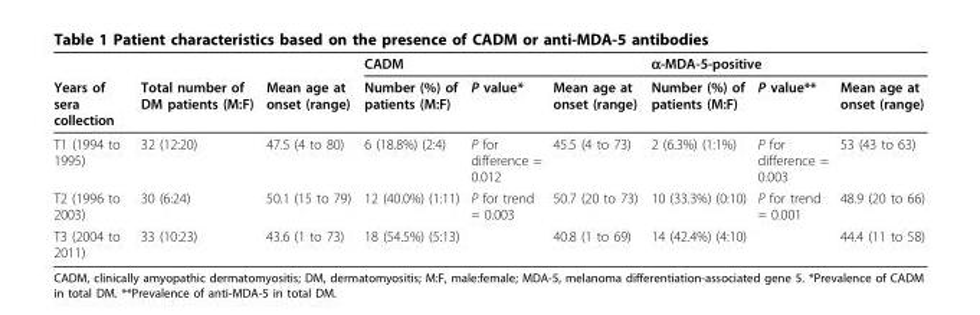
<table><thead><tr><td rowspan="2">Years of sera collection</td><td rowspan="2">Total number of DM patients (M:F)</td><td rowspan="2">Mean age at onset (range)</td><td colspan="3">CADM</td><td colspan="3">α-MDA-5-positive</td></tr><tr><td>Number (%) of patients (M:F)</td><td>P value*</td><td>Mean age at onset (range)</td><td>Number (%) of patients (M:F)</td><td>P value**</td><td>Mean age at onset (range)</td></tr></thead><tbody><tr><td>T1 (1994 to 1995)</td><td>32 (12:20)</td><td>47.5 (4 to 80)</td><td>6 (18.8%) (2:4)</td><td>P for difference = 0.012</td><td>45.5 (4 to 73)</td><td>2 (6.3%) (1:1%)</td><td>P for difference = 0.003</td><td>53 (43 to 63)</td></tr><tr><td>T2 (1996 to 2003)</td><td>30 (6:24)</td><td>50.1 (15 to 79)</td><td>12 (40.0%) (1:11)</td><td>P for trend = 0.003</td><td>50.7 (20 to 73)</td><td>10 (33.3%) (0:10)</td><td>P for trend = 0.001</td><td>48.9 (20 to 66)</td></tr><tr><td>T3 (2004 to 2011)</td><td>33 (10:23)</td><td>43.6 (1 to 73)</td><td>18 (54.5%) (5:13)</td><td></td><td>40.8 (1 to 69)</td><td>14 (42.4%) (4:10)</td><td></td><td>44.4 (11 to 58)</td></tr></tbody></table>